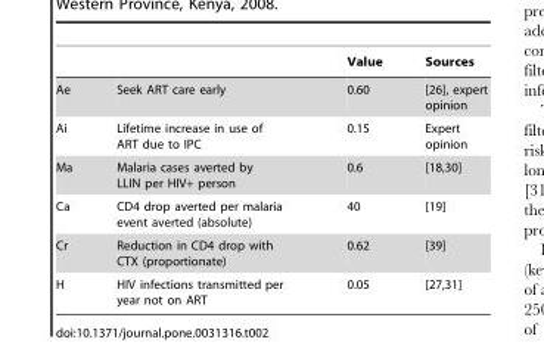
<table><thead><tr><td></td><td></td><td>Value</td><td>Sources</td></tr></thead><tbody><tr><td>Ae</td><td>Seek ART care early</td><td>0.60</td><td>[26], expert opinion</td></tr><tr><td>Ai</td><td>Lifetime increase in use of ART due to IPC</td><td>0.15</td><td>Expert opinion</td></tr><tr><td>Ma</td><td>Malaria cases averted by LLIN per HIV+ person</td><td>0.6</td><td>[18,30]</td></tr><tr><td>Ca</td><td>CD4 drop averted per malaria event averted (absolute)</td><td>40</td><td>[19]</td></tr><tr><td>Cr</td><td>Reduction in CD4 drop with CTX (proportionate)</td><td>0.62</td><td>[39]</td></tr><tr><td>H</td><td>HIV infections transmitted per year not on ART</td><td>0.05</td><td>[27,31]</td></tr></tbody></table>